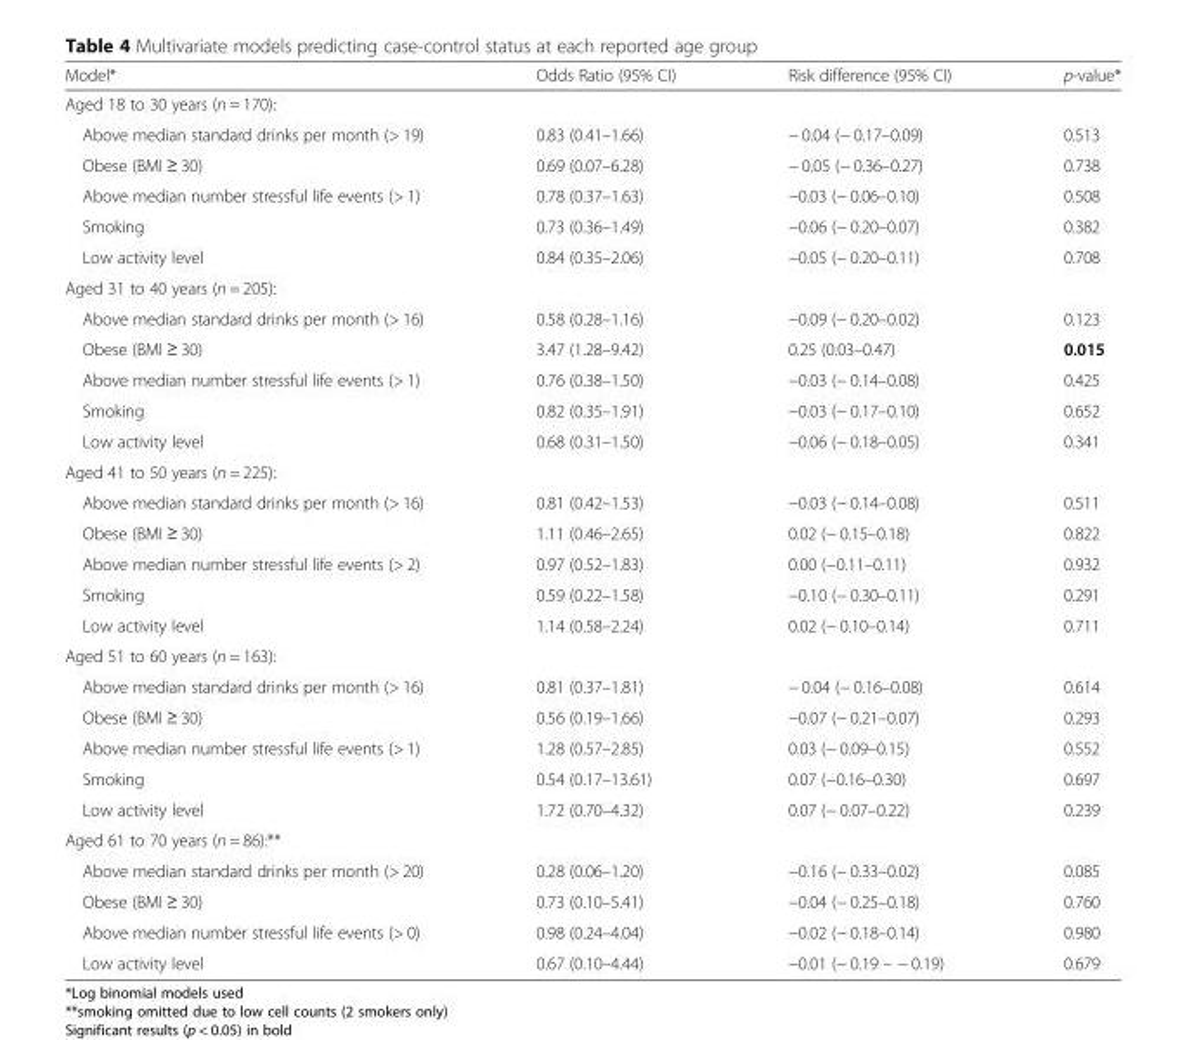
<table><thead><tr><td>Model*</td><td>Odds Ratio (95% CI)</td><td>Risk difference (95% CI)</td><td>p-value*</td></tr></thead><tbody><tr><td colspan="4">Aged 18 to 30 years (n = 170):</td></tr><tr><td>Above median standard drinks per month (&gt; 19)</td><td>0.83 (0.41–1.66)</td><td>− 0.04 (− 0.17–0.09)</td><td>0.513</td></tr><tr><td>Obese (BMI ≥ 30)</td><td>0.69 (0.07–6.28)</td><td>− 0.05 (− 0.36–0.27)</td><td>0.738</td></tr><tr><td>Above median number stressful life events (&gt; 1)</td><td>0.78 (0.37–1.63)</td><td>−0.03 (− 0.06–0.10)</td><td>0.508</td></tr><tr><td>Smoking</td><td>0.73 (0.36–1.49)</td><td>−0.06 (− 0.20–0.07)</td><td>0.382</td></tr><tr><td>Low activity level</td><td>0.84 (0.35–2.06)</td><td>−0.05 (− 0.20–0.11)</td><td>0.708</td></tr><tr><td colspan="4">Aged 31 to 40 years (n = 205):</td></tr><tr><td>Above median standard drinks per month (&gt; 16)</td><td>0.58 (0.28–1.16)</td><td>−0.09 (− 0.20–0.02)</td><td>0.123</td></tr><tr><td>Obese (BMI ≥ 30)</td><td>3.47 (1.28–9.42)</td><td>0.25 (0.03–0.47)</td><td>0.015</td></tr><tr><td>Above median number stressful life events (&gt; 1)</td><td>0.76 (0.38–1.50)</td><td>−0.03 (− 0.14–0.08)</td><td>0.425</td></tr><tr><td>Smoking</td><td>0.82 (0.35–1.91)</td><td>−0.03 (− 0.17–0.10)</td><td>0.652</td></tr><tr><td>Low activity level</td><td>0.68 (0.31–1.50)</td><td>−0.06 (− 0.18–0.05)</td><td>0.341</td></tr><tr><td colspan="4">Aged 41 to 50 years (n = 225):</td></tr><tr><td>Above median standard drinks per month (&gt; 16)</td><td>0.81 (0.42–1.53)</td><td>−0.03 (− 0.14–0.08)</td><td>0.511</td></tr><tr><td>Obese (BMI ≥ 30)</td><td>1.11 (0.46–2.65)</td><td>0.02 (− 0.15–0.18)</td><td>0.822</td></tr><tr><td>Above median number stressful life events (&gt; 2)</td><td>0.97 (0.52–1.83)</td><td>0.00 (−0.11–0.11)</td><td>0.932</td></tr><tr><td>Smoking</td><td>0.59 (0.22–1.58)</td><td>−0.10 (− 0.30–0.11)</td><td>0.291</td></tr><tr><td>Low activity level</td><td>1.14 (0.58–2.24)</td><td>0.02 (− 0.10–0.14)</td><td>0.711</td></tr><tr><td colspan="4">Aged 51 to 60 years (n = 163):</td></tr><tr><td>Above median standard drinks per month (&gt; 16)</td><td>0.81 (0.37–1.81)</td><td>− 0.04 (− 0.16–0.08)</td><td>0.614</td></tr><tr><td>Obese (BMI ≥ 30)</td><td>0.56 (0.19–1.66)</td><td>−0.07 (− 0.21–0.07)</td><td>0.293</td></tr><tr><td>Above median number stressful life events (&gt; 1)</td><td>1.28 (0.57–2.85)</td><td>0.03 (− 0.09–0.15)</td><td>0.552</td></tr><tr><td>Smoking</td><td>0.54 (0.17–13.61)</td><td>0.07 (−0.16–0.30)</td><td>0.697</td></tr><tr><td>Low activity level</td><td>1.72 (0.70–4.32)</td><td>0.07 (− 0.07–0.22)</td><td>0.239</td></tr><tr><td colspan="4">Aged 61 to 70 years (n = 86):**</td></tr><tr><td>Above median standard drinks per month (&gt; 20)</td><td>0.28 (0.06–1.20)</td><td>−0.16 (− 0.33–0.02)</td><td>0.085</td></tr><tr><td>Obese (BMI ≥ 30)</td><td>0.73 (0.10–5.41)</td><td>−0.04 (− 0.25–0.18)</td><td>0.760</td></tr><tr><td>Above median number stressful life events (&gt; 0)</td><td>0.98 (0.24–4.04)</td><td>−0.02 (− 0.18–0.14)</td><td>0.980</td></tr><tr><td>Low activity level</td><td>0.67 (0.10–4.44)</td><td>−0.01 (− 0.19 – − 0.19)</td><td>0.679</td></tr></tbody></table>